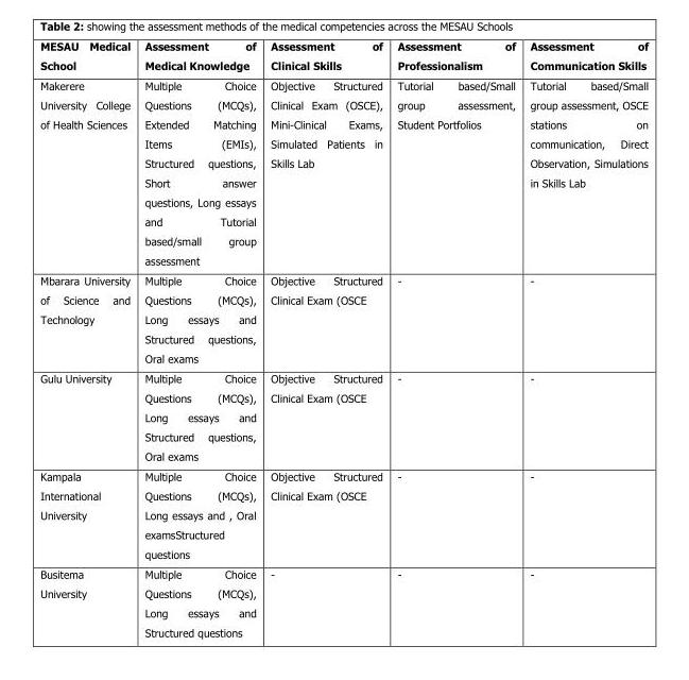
<table><thead><tr><td>MESAU Medical School</td><td>Assessment of Medical Knowledge</td><td>Assessment of Clinical Skills</td><td>Assessment of Professionalism</td><td>Assessment of Communication Skills</td></tr></thead><tbody><tr><td>Makerere University College of Health Sciences</td><td>Multiple Choice Questions (MCQs), Extended Matching Items (EMIs), Structured questions, Short answer questions, Long essays and Tutorial based/small group assessment</td><td>Objective Structured Clinical Exam (OSCE), Mini-Clinical Exams, Simulated Patients in Skills Lab</td><td>Tutorial based/Small group assessment, Student Portfolios</td><td>Tutorial based/Small group assessment, OSCE stations on communication, Direct Observation, Simulations in Skills Lab</td></tr><tr><td>Mbarara University of Science and Technology</td><td>Multiple Choice Questions (MCQs), Long essays and Structured questions, Oral exams</td><td>Objective Structured Clinical Exam (OSCE</td><td>-</td><td>-</td></tr><tr><td>Gulu University</td><td>Multiple Choice Questions (MCQs), Long essays and Structured questions, Oral exams</td><td>Objective Structured Clinical Exam (OSCE</td><td>-</td><td>-</td></tr><tr><td>Kampala International University</td><td>Multiple Choice Questions (MCQs), Long essays and , Oral examsStructured questions</td><td>Objective Structured Clinical Exam (OSCE</td><td>-</td><td>-</td></tr><tr><td>Busitema University</td><td>Multiple Choice Questions (MCQs), Long essays and Structured questions</td><td>-</td><td>-</td><td>-</td></tr></tbody></table>